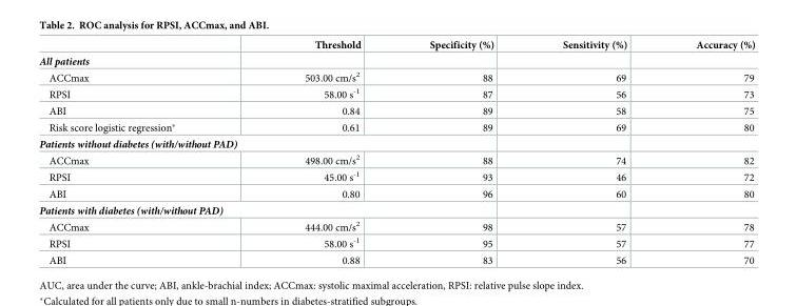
<table><thead><tr><td></td><td>Threshold</td><td>Specificity (%)</td><td>Sensitivity (%)</td><td>Accuracy (%)</td></tr></thead><tbody><tr><td colspan="5">All patients</td></tr><tr><td>ACCmax</td><td>503.00 cm/s<sup>2</sup></td><td>88</td><td>69</td><td>79</td></tr><tr><td>RPSI</td><td>58.00 s<sup>-1</sup></td><td>87</td><td>56</td><td>73</td></tr><tr><td>ABI</td><td>0.84</td><td>89</td><td>58</td><td>75</td></tr><tr><td>Risk score logistic regression*</td><td>0.61</td><td>89</td><td>69</td><td>80</td></tr><tr><td colspan="5">Patients without diabetes (with/without PAD)</td></tr><tr><td>ACCmax</td><td>498.00 cm/s<sup>2</sup></td><td>88</td><td>74</td><td>82</td></tr><tr><td>RPSI</td><td>45.00 s<sup>-1</sup></td><td>93</td><td>46</td><td>72</td></tr><tr><td>ABI</td><td>0.80</td><td>96</td><td>60</td><td>80</td></tr><tr><td colspan="5">Patients with diabetes (with/without PAD)</td></tr><tr><td>ACCmax</td><td>444.00 cm/s<sup>2</sup></td><td>98</td><td>57</td><td>78</td></tr><tr><td>RPSI</td><td>58.00 s<sup>-1</sup></td><td>95</td><td>57</td><td>77</td></tr><tr><td>ABI</td><td>0.88</td><td>83</td><td>56</td><td>70</td></tr></tbody></table>